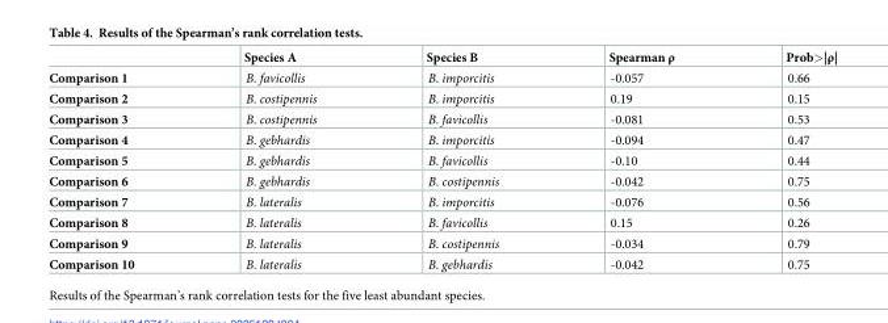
<table><thead><tr><td></td><td>Species A</td><td>Species B</td><td>Spearman ρ</td><td>Prob&gt;|ρ|</td></tr></thead><tbody><tr><td>Comparison 1</td><td>B. favicollis</td><td>B. imporcitis</td><td>-0.057</td><td>0.66</td></tr><tr><td>Comparison 2</td><td>B. costipennis</td><td>B. imporcitis</td><td>0.19</td><td>0.15</td></tr><tr><td>Comparison 3</td><td>B. costipennis</td><td>B. favicollis</td><td>-0.081</td><td>0.53</td></tr><tr><td>Comparison 4</td><td>B. gebhardis</td><td>B. imporcitis</td><td>-0.094</td><td>0.47</td></tr><tr><td>Comparison 5</td><td>B. gebhardis</td><td>B. favicollis</td><td>-0.10</td><td>0.44</td></tr><tr><td>Comparison 6</td><td>B. gebhardis</td><td>B. costipennis</td><td>-0.042</td><td>0.75</td></tr><tr><td>Comparison 7</td><td>B. lateralis</td><td>B. imporcitis</td><td>-0.076</td><td>0.56</td></tr><tr><td>Comparison 8</td><td>B. lateralis</td><td>B. favicollis</td><td>0.15</td><td>0.26</td></tr><tr><td>Comparison 9</td><td>B. lateralis</td><td>B. costipennis</td><td>-0.034</td><td>0.79</td></tr><tr><td>Comparison 10</td><td>B. lateralis</td><td>B. gebhardis</td><td>-0.042</td><td>0.75</td></tr></tbody></table>